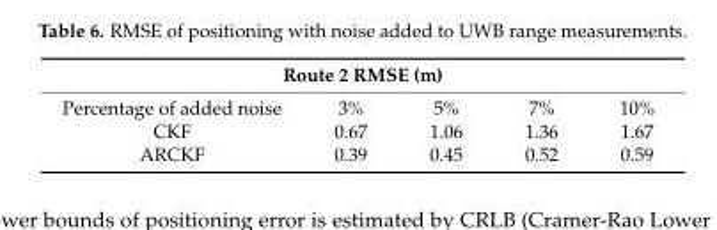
<table><thead><tr><td colspan="5">Route 2 RMSE (m)</td></tr><tr><td>Percentage of added noise</td><td>3%</td><td>5%</td><td>7%</td><td>10%</td></tr></thead><tbody><tr><td>CKF</td><td>0.67</td><td>1.06</td><td>1.36</td><td>1.67</td></tr><tr><td>ARCKF</td><td>0.39</td><td>0.45</td><td>0.52</td><td>0.59</td></tr></tbody></table>